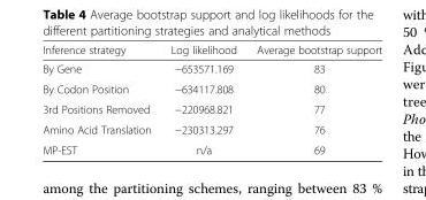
<table><thead><tr><td>Inference strategy</td><td>Log likelihood</td><td>Average bootstrap support</td></tr></thead><tbody><tr><td>By Gene</td><td>−653571.169</td><td>83</td></tr><tr><td>By Codon Position</td><td>−634117.808</td><td>80</td></tr><tr><td>3rd Positions Removed</td><td>−220968.821</td><td>77</td></tr><tr><td>Amino Acid Translation</td><td>−230313.297</td><td>76</td></tr><tr><td>MP-EST</td><td>n/a</td><td>69</td></tr></tbody></table>